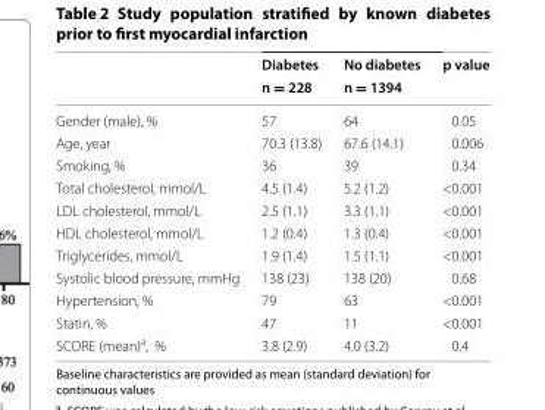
<table><thead><tr><td rowspan="2"></td><td rowspan="2">Diabetes n = 228</td><td rowspan="2">No diabetes n = 1394</td><td rowspan="2">p value</td></tr><tr></tr></thead><tbody><tr><td>Gender (male), %</td><td>57</td><td>64</td><td>0.05</td></tr><tr><td>Age, year</td><td>70.3 (13.8)</td><td>67.6 (14.1)</td><td>0.006</td></tr><tr><td>Smoking, %</td><td>36</td><td>39</td><td>0.34</td></tr><tr><td>Total cholesterol, mmol/L</td><td>4.5 (1.4)</td><td>5.2 (1.2)</td><td>&lt;0.001</td></tr><tr><td>LDL cholesterol, mmol/L</td><td>2.5 (1.1)</td><td>3.3 (1.1)</td><td>&lt;0.001</td></tr><tr><td>HDL cholesterol, mmol/L</td><td>1.2 (0.4)</td><td>1.3 (0.4)</td><td>&lt;0.001</td></tr><tr><td>Triglycerides, mmol/L</td><td>1.9 (1.4)</td><td>1.5 (1.1)</td><td>&lt;0.001</td></tr><tr><td>Systolic blood pressure, mmHg</td><td>138 (23)</td><td>138 (20)</td><td>0.68</td></tr><tr><td>Hypertension, %</td><td>79</td><td>63</td><td>&lt;0.001</td></tr><tr><td>Statin, %</td><td>47</td><td>11</td><td>&lt;0.001</td></tr><tr><td>SCORE (mean)<sup>a</sup>, %</td><td>3.8 (2.9)</td><td>4.0 (3.2)</td><td>0.4</td></tr></tbody></table>